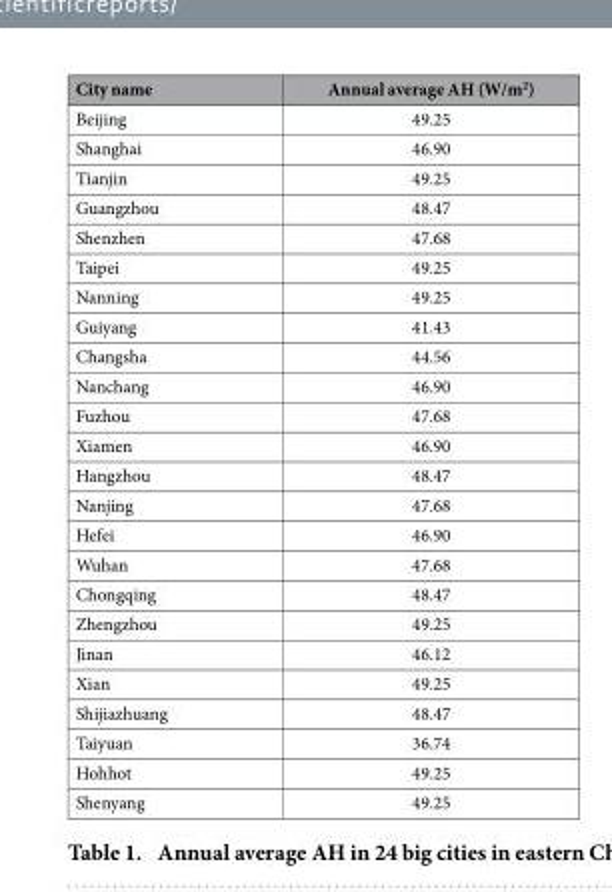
<table><thead><tr><td>City name</td><td>Annual average AH (W/m<sup>2</sup>)</td></tr></thead><tbody><tr><td>Beijing</td><td>49.25</td></tr><tr><td>Shanghai</td><td>46.90</td></tr><tr><td>Tianjin</td><td>49.25</td></tr><tr><td>Guangzhou</td><td>48.47</td></tr><tr><td>Shenzhen</td><td>47.68</td></tr><tr><td>Taipei</td><td>49.25</td></tr><tr><td>Nanning</td><td>49.25</td></tr><tr><td>Guiyang</td><td>41.43</td></tr><tr><td>Changsha</td><td>44.56</td></tr><tr><td>Nanchang</td><td>46.90</td></tr><tr><td>Fuzhou</td><td>47.68</td></tr><tr><td>Xiamen</td><td>46.90</td></tr><tr><td>Hangzhou</td><td>48.47</td></tr><tr><td>Nanjing</td><td>47.68</td></tr><tr><td>Hefei</td><td>46.90</td></tr><tr><td>Wuhan</td><td>47.68</td></tr><tr><td>Chongqing</td><td>48.47</td></tr><tr><td>Zhengzhou</td><td>49.25</td></tr><tr><td>Jinan</td><td>46.12</td></tr><tr><td>Xian</td><td>49.25</td></tr><tr><td>Shijiazhuang</td><td>48.47</td></tr><tr><td>Taiyuan</td><td>36.74</td></tr><tr><td>Hohhot</td><td>49.25</td></tr><tr><td>Shenyang</td><td>49.25</td></tr></tbody></table>